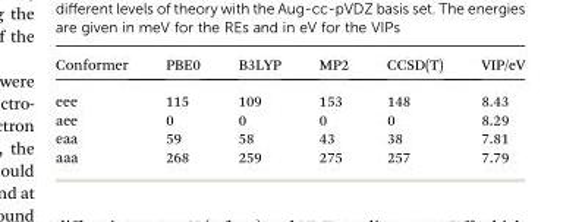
<table><thead><tr><td>Conformer</td><td>PBE0</td><td>B3LYP</td><td>MP2</td><td>CCSD(T)</td><td>VIP/eV</td></tr></thead><tbody><tr><td>eee</td><td>115</td><td>109</td><td>153</td><td>148</td><td>8.43</td></tr><tr><td>aee</td><td>0</td><td>0</td><td>0</td><td>0</td><td>8.29</td></tr><tr><td>eaa</td><td>59</td><td>58</td><td>43</td><td>38</td><td>7.81</td></tr><tr><td>aaa</td><td>268</td><td>259</td><td>275</td><td>257</td><td>7.79</td></tr></tbody></table>